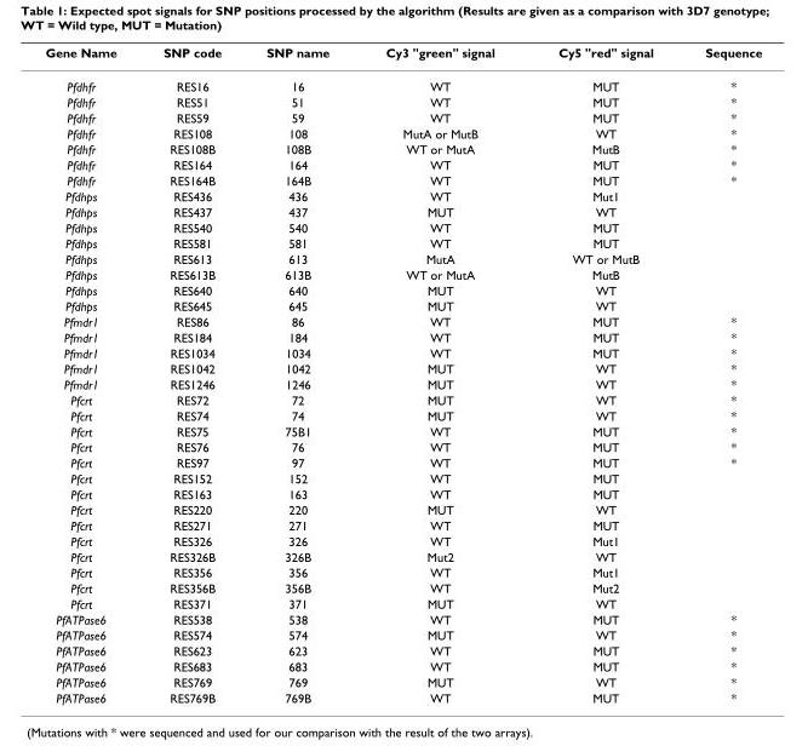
<table><thead><tr><td>Gene Name</td><td>SNP code</td><td>SNP name</td><td>Cy3 &quot;green&quot; signal</td><td>Cy5 &quot;red&quot; signal</td><td>Sequence</td></tr></thead><tbody><tr><td>Pfdhfr</td><td>RES16</td><td>16</td><td>WT</td><td>MUT</td><td>*</td></tr><tr><td>Pfdhfr</td><td>RES51</td><td>51</td><td>WT</td><td>MUT</td><td>*</td></tr><tr><td>Pfdhfr</td><td>RES59</td><td>59</td><td>WT</td><td>MUT</td><td>*</td></tr><tr><td>Pfdhfr</td><td>RES108</td><td>108</td><td>MutA or MutB</td><td>WT</td><td>*</td></tr><tr><td>Pfdhfr</td><td>RES108B</td><td>108B</td><td>WT or MutA</td><td>MutB</td><td>*</td></tr><tr><td>Pfdhfr</td><td>RES164</td><td>164</td><td>WT</td><td>MUT</td><td>*</td></tr><tr><td>Pfdhfr</td><td>RES164B</td><td>164B</td><td>WT</td><td>MUT</td><td>*</td></tr><tr><td>Pfdhps</td><td>RES436</td><td>436</td><td>WT</td><td>Mut1</td><td></td></tr><tr><td>Pfdhps</td><td>RES437</td><td>437</td><td>MUT</td><td>WT</td><td></td></tr><tr><td>Pfdhps</td><td>RES540</td><td>540</td><td>WT</td><td>MUT</td><td></td></tr><tr><td>Pfdhps</td><td>RES581</td><td>581</td><td>WT</td><td>MUT</td><td></td></tr><tr><td>Pfdhps</td><td>RES613</td><td>613</td><td>MutA</td><td>WT or MutB</td><td></td></tr><tr><td>Pfdhps</td><td>RES613B</td><td>613B</td><td>WT or MutA</td><td>MutB</td><td></td></tr><tr><td>Pfdhps</td><td>RES640</td><td>640</td><td>MUT</td><td>WT</td><td></td></tr><tr><td>Pfdhps</td><td>RES645</td><td>645</td><td>MUT</td><td>WT</td><td></td></tr><tr><td>Pfmdr1</td><td>RES86</td><td>86</td><td>WT</td><td>MUT</td><td>*</td></tr><tr><td>Pfmdr1</td><td>RES184</td><td>184</td><td>WT</td><td>MUT</td><td>*</td></tr><tr><td>Pfmdr1</td><td>RES1034</td><td>1034</td><td>WT</td><td>MUT</td><td>*</td></tr><tr><td>Pfmdr1</td><td>RES1042</td><td>1042</td><td>MUT</td><td>WT</td><td>*</td></tr><tr><td>Pfmdr1</td><td>RES1246</td><td>1246</td><td>MUT</td><td>WT</td><td>*</td></tr><tr><td>Pfcrt</td><td>RES72</td><td>72</td><td>MUT</td><td>WT</td><td>*</td></tr><tr><td>Pfcrt</td><td>RES74</td><td>74</td><td>MUT</td><td>WT</td><td>*</td></tr><tr><td>Pfcrt</td><td>RES75</td><td>75B1</td><td>WT</td><td>MUT</td><td>*</td></tr><tr><td>Pfcrt</td><td>RES76</td><td>76</td><td>WT</td><td>MUT</td><td>*</td></tr><tr><td>Pfcrt</td><td>RES97</td><td>97</td><td>WT</td><td>MUT</td><td>*</td></tr><tr><td>Pfcrt</td><td>RES152</td><td>152</td><td>WT</td><td>MUT</td><td></td></tr><tr><td>Pfcrt</td><td>RES163</td><td>163</td><td>WT</td><td>MUT</td><td></td></tr><tr><td>Pfcrt</td><td>RES220</td><td>220</td><td>MUT</td><td>WT</td><td></td></tr><tr><td>Pfcrt</td><td>RES271</td><td>271</td><td>WT</td><td>MUT</td><td></td></tr><tr><td>Pfcrt</td><td>RES326</td><td>326</td><td>WT</td><td>Mut1</td><td></td></tr><tr><td>Pfcrt</td><td>RES326B</td><td>326B</td><td>Mut2</td><td>WT</td><td></td></tr><tr><td>Pfcrt</td><td>RES356</td><td>356</td><td>WT</td><td>Mut1</td><td></td></tr><tr><td>Pfcrt</td><td>RES356B</td><td>356B</td><td>WT</td><td>Mut2</td><td></td></tr><tr><td>Pfcrt</td><td>RES371</td><td>371</td><td>MUT</td><td>WT</td><td></td></tr><tr><td>PfATPase6</td><td>RES538</td><td>538</td><td>WT</td><td>MUT</td><td>*</td></tr><tr><td>PfATPase6</td><td>RES574</td><td>574</td><td>MUT</td><td>WT</td><td>*</td></tr><tr><td>PfATPase6</td><td>RES623</td><td>623</td><td>WT</td><td>MUT</td><td>*</td></tr><tr><td>PfATPase6</td><td>RES683</td><td>683</td><td>WT</td><td>MUT</td><td>*</td></tr><tr><td>PfATPase6</td><td>RES769</td><td>769</td><td>MUT</td><td>WT</td><td>*</td></tr><tr><td>PfATPase6</td><td>RES769B</td><td>769B</td><td>WT</td><td>MUT</td><td>*</td></tr></tbody></table>